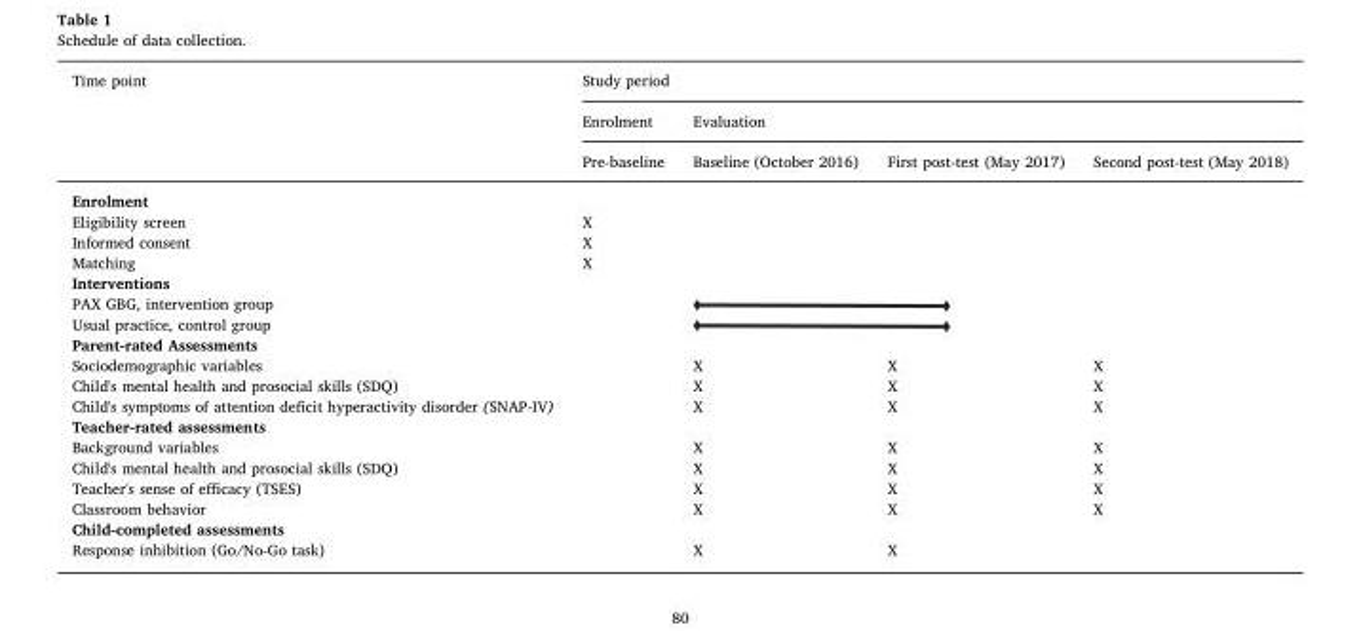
<table><thead><tr><td rowspan="3">Time point</td><td colspan="4">Study period</td></tr><tr><td rowspan="2">Enrolment Pre-baseline</td><td colspan="3">Evaluation</td></tr><tr><td>Baseline (October 2016)</td><td>First post-test (May 2017)</td><td>Second post-test (May 2018)</td></tr></thead><tbody><tr><td colspan="5">Enrolment</td></tr><tr><td>Eligibility screen</td><td>X</td><td></td><td></td><td></td></tr><tr><td>Informed consent</td><td>X</td><td></td><td></td><td></td></tr><tr><td>Matching</td><td>X</td><td></td><td></td><td></td></tr><tr><td colspan="5">Interventions</td></tr><tr><td>PAX GBG, intervention group</td><td></td><td colspan="3"></td></tr><tr><td>Usual practice, control group</td><td></td><td colspan="3"></td></tr><tr><td colspan="5">Parent-rated Assessments</td></tr><tr><td>Sociodemographic variables</td><td></td><td>X</td><td>X</td><td>X</td></tr><tr><td>Child&#x27;s mental health and prosocial skills (SDQ)</td><td></td><td>X</td><td>X</td><td>X</td></tr><tr><td>Child&#x27;s symptoms of attention deficit hyperactivity disorder (SNAP-IV)</td><td></td><td>X</td><td>X</td><td>X</td></tr><tr><td colspan="5">Teacher-rated assessments</td></tr><tr><td>Background variables</td><td></td><td>X</td><td>X</td><td>X</td></tr><tr><td>Child&#x27;s mental health and prosocial skills (SDQ)</td><td></td><td>X</td><td>X</td><td>X</td></tr><tr><td>Teacher&#x27;s sense of efficacy (TSES)</td><td></td><td>X</td><td>X</td><td>X</td></tr><tr><td>Classroom behavior</td><td></td><td>X</td><td>X</td><td>X</td></tr><tr><td colspan="5">Child-completed assessments</td></tr><tr><td>Response inhibition (Go/No-Go task)</td><td></td><td>X</td><td>X</td><td></td></tr></tbody></table>